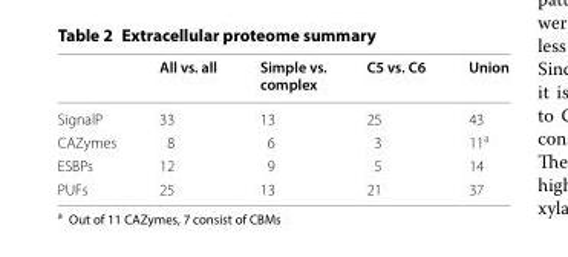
<table><thead><tr><td></td><td>All vs. all</td><td>Simple vs. complex</td><td>C5 vs. C6</td><td>Union</td></tr></thead><tbody><tr><td>SignalP</td><td>33</td><td>13</td><td>25</td><td>43</td></tr><tr><td>CAZymes</td><td>8</td><td>6</td><td>3</td><td>11<sup>a</sup></td></tr><tr><td>ESBPs</td><td>12</td><td>9</td><td>5</td><td>14</td></tr><tr><td>PUFs</td><td>25</td><td>13</td><td>21</td><td>37</td></tr></tbody></table>